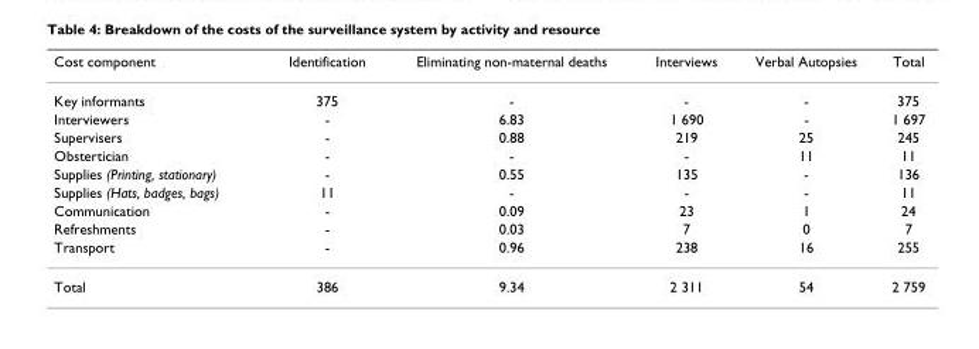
<table><thead><tr><td>Cost component</td><td>Identification</td><td>Eliminating non-maternal deaths</td><td>Interviews</td><td>Verbal Autopsies</td><td>Total</td></tr></thead><tbody><tr><td>Key informants</td><td>375</td><td>-</td><td>-</td><td>-</td><td>375</td></tr><tr><td>Interviewers</td><td>-</td><td>6.83</td><td>1 690</td><td>-</td><td>1 697</td></tr><tr><td>Supervisers</td><td>-</td><td>0.88</td><td>219</td><td>25</td><td>245</td></tr><tr><td>Obstertician</td><td>-</td><td>-</td><td>-</td><td>11</td><td>11</td></tr><tr><td>Supplies (Printing, stationary)</td><td>-</td><td>0.55</td><td>135</td><td>-</td><td>136</td></tr><tr><td>Supplies (Hats, badges, bags)</td><td>11</td><td>-</td><td>-</td><td>-</td><td>11</td></tr><tr><td>Communication</td><td>-</td><td>0.09</td><td>23</td><td>1</td><td>24</td></tr><tr><td>Refreshments</td><td>-</td><td>0.03</td><td>7</td><td>0</td><td>7</td></tr><tr><td>Transport</td><td>-</td><td>0.96</td><td>238</td><td>16</td><td>255</td></tr><tr><td>Total</td><td>386</td><td>9.34</td><td>2 311</td><td>54</td><td>2 759</td></tr></tbody></table>